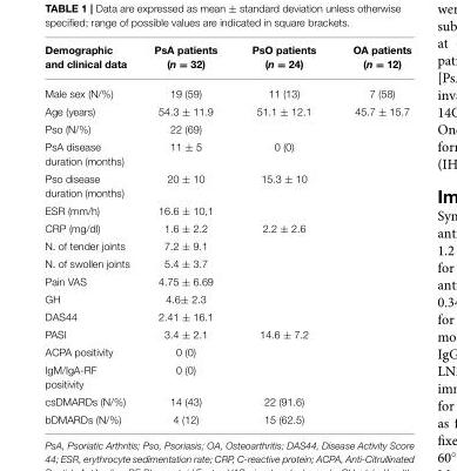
<table><thead><tr><td>Demographic and clinical data</td><td>PsA patients (n = 32)</td><td>PsO patients (n = 24)</td><td>OA patients (n = 12)</td></tr></thead><tbody><tr><td>Male sex (N/%)</td><td>19 (59)</td><td>11 (13)</td><td>7 (58)</td></tr><tr><td>Age (years)</td><td>54.3 ± 11.9</td><td>51.1 ± 12.1</td><td>45.7 ± 15.7</td></tr><tr><td>Pso (N/%)</td><td>22 (69)</td><td></td><td></td></tr><tr><td>PsA disease duration (months)</td><td>11 ± 5</td><td>0 (0)</td><td></td></tr><tr><td>Pso disease duration (months)</td><td>20 ± 10</td><td>15.3 ± 10</td><td></td></tr><tr><td>ESR (mm/h)</td><td>16.6 ± 10,1</td><td></td><td></td></tr><tr><td>CRP (mg/dl)</td><td>1.6 ± 2.2</td><td>2.2 ± 2.6</td><td></td></tr><tr><td>N. of tender joints</td><td>7.2 ± 9.1</td><td></td><td></td></tr><tr><td>N. of swollen joints</td><td>5.4 ± 3.7</td><td></td><td></td></tr><tr><td>Pain VAS</td><td>4.75 ± 6.69</td><td></td><td></td></tr><tr><td>GH</td><td>4.6± 2.3</td><td></td><td></td></tr><tr><td>DAS44</td><td>2.41 ± 16.1</td><td></td><td></td></tr><tr><td>PASI</td><td>3.4 ± 2.1</td><td>14.6 ± 7.2</td><td></td></tr><tr><td>ACPA positivity</td><td>0 (0)</td><td></td><td></td></tr><tr><td>IgM/IgA-RF positivity</td><td>0 (0)</td><td></td><td></td></tr><tr><td>csDMARDs (N/%)</td><td>14 (43)</td><td>22 (91.6)</td><td></td></tr><tr><td>bDMARDs (N/%)</td><td>4 (12)</td><td>15 (62.5)</td><td></td></tr></tbody></table>